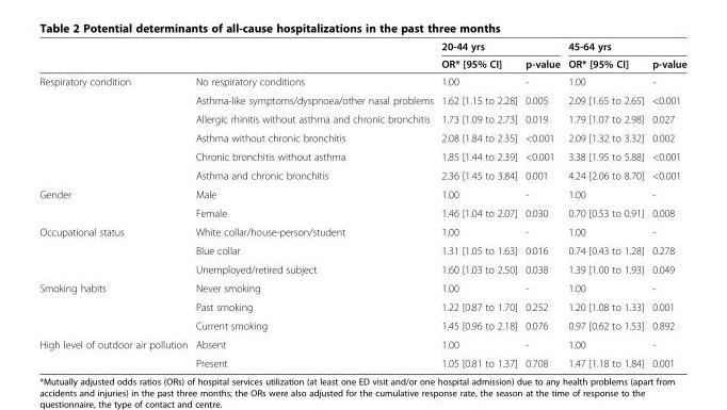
<table><thead><tr><td rowspan="2"></td><td rowspan="2"></td><td colspan="2">20-44 yrs</td><td colspan="2">45-64 yrs</td></tr><tr><td>OR* [95% CI]</td><td>p-value</td><td>OR* [95% CI]</td><td>p-value</td></tr></thead><tbody><tr><td rowspan="6">Respiratory condition</td><td>No respiratory conditions</td><td>1.00</td><td>-</td><td>1.00</td><td>-</td></tr><tr><td>Asthma-like symptoms/dyspnoea/other nasal problems</td><td>1.62 [1.15 to 2.28]</td><td>0.005</td><td>2.09 [1.65 to 2.65]</td><td>&lt;0.001</td></tr><tr><td>Allergic rhinitis without asthma and chronic bronchitis</td><td>1.73 [1.09 to 2.73]</td><td>0.019</td><td>1.79 [1.07 to 2.98]</td><td>0.027</td></tr><tr><td>Asthma without chronic bronchitis</td><td>2.08 [1.84 to 2.35]</td><td>&lt;0.001</td><td>2.09 [1.32 to 3.32]</td><td>0.002</td></tr><tr><td>Chronic bronchitis without asthma</td><td>1.85 [1.44 to 2.39]</td><td>&lt;0.001</td><td>3.38 [1.95 to 5.88]</td><td>&lt;0.001</td></tr><tr><td>Asthma and chronic bronchitis</td><td>2.36 [1.45 to 3.84]</td><td>0.001</td><td>4.24 [2.06 to 8.70]</td><td>&lt;0.001</td></tr><tr><td rowspan="2">Gender</td><td>Male</td><td>1.00</td><td>-</td><td>1.00</td><td>-</td></tr><tr><td>Female</td><td>1.46 [1.04 to 2.07]</td><td>0.030</td><td>0.70 [0.53 to 0.91]</td><td>0.008</td></tr><tr><td rowspan="3">Occupational status</td><td>White collar/house-person/student</td><td>1.00</td><td>-</td><td>1.00</td><td>-</td></tr><tr><td>Blue collar</td><td>1.31 [1.05 to 1.63]</td><td>0.016</td><td>0.74 [0.43 to 1.28]</td><td>0.278</td></tr><tr><td>Unemployed/retired subject</td><td>1.60 [1.03 to 2.50]</td><td>0.038</td><td>1.39 [1.00 to 1.93]</td><td>0.049</td></tr><tr><td rowspan="3">Smoking habits</td><td>Never smoking</td><td>1.00</td><td>-</td><td>1.00</td><td>-</td></tr><tr><td>Past smoking</td><td>1.22 [0.87 to 1.70]</td><td>0.252</td><td>1.20 [1.08 to 1.33]</td><td>0.001</td></tr><tr><td>Current smoking</td><td>1.45 [0.96 to 2.18]</td><td>0.076</td><td>0.97 [0.62 to 1.53]</td><td>0.892</td></tr><tr><td rowspan="2">High level of outdoor air pollution</td><td>Absent</td><td>1.00</td><td>-</td><td>1.00</td><td>-</td></tr><tr><td>Present</td><td>1.05 [0.81 to 1.37]</td><td>0.708</td><td>1.47 [1.18 to 1.84]</td><td>0.001</td></tr></tbody></table>